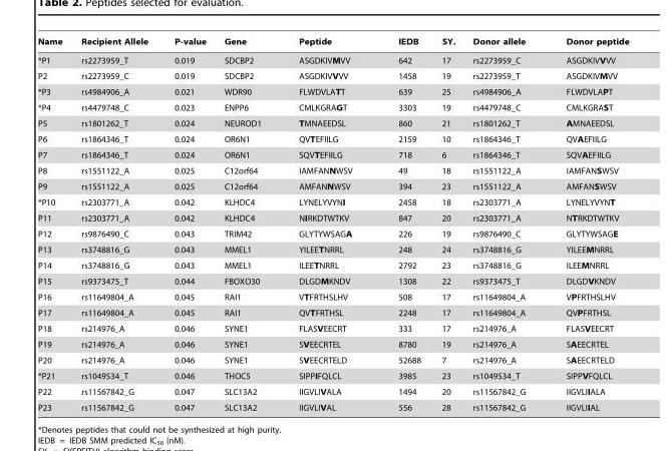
<table><thead><tr><td>Name</td><td>Recipient Allele</td><td>P-value</td><td>Gene</td><td>Peptide</td><td>IEDB</td><td>SY.</td><td>Donor allele</td><td>Donor peptide</td></tr></thead><tbody><tr><td>*P1</td><td>rs2273959_T</td><td>0.019</td><td>SDCBP2</td><td>ASGDKIVMVV</td><td>642</td><td>17</td><td>rs2273959_C</td><td>ASGDKIVVVV</td></tr><tr><td>P2</td><td>rs2273959_C</td><td>0.019</td><td>SDCBP2</td><td>ASGDKIVVVV</td><td>1458</td><td>19</td><td>rs2273959_T</td><td>ASGDKIVMVV</td></tr><tr><td>*P3</td><td>rs4984906_A</td><td>0.021</td><td>WDR90</td><td>FLWDVLATT</td><td>639</td><td>25</td><td>rs4984906_A</td><td>FLWDVLAPT</td></tr><tr><td>*P4</td><td>rs4479748_C</td><td>0.023</td><td>ENPP6</td><td>CMLKGRAGT</td><td>3303</td><td>19</td><td>rs4479748_C</td><td>CMLKGRAST</td></tr><tr><td>P5</td><td>rs1801262_T</td><td>0.024</td><td>NEUROD1</td><td>TMNAEEDSL</td><td>860</td><td>21</td><td>rs1801262_T</td><td>AMNAEEDSL</td></tr><tr><td>P6</td><td>rs1864346_T</td><td>0.024</td><td>OR6N1</td><td>QVTEFIILG</td><td>2159</td><td>10</td><td>rs1864346_T</td><td>QVAEFIILG</td></tr><tr><td>P7</td><td>rs1864346_T</td><td>0.024</td><td>OR6N1</td><td>SQVTEFIILG</td><td>718</td><td>6</td><td>rs1864346_T</td><td>SQVAEFIILG</td></tr><tr><td>P8</td><td>rs1551122_A</td><td>0.025</td><td>C12orf64</td><td>IAMFANNWSV</td><td>49</td><td>18</td><td>rs1551122_A</td><td>IAMFANSWSV</td></tr><tr><td>P9</td><td>rs1551122_A</td><td>0.025</td><td>C12orf64</td><td>AMFANNWSV</td><td>394</td><td>23</td><td>rs1551122_A</td><td>AMFANSWSV</td></tr><tr><td>*P10</td><td>rs2303771_A</td><td>0.042</td><td>KLHDC4</td><td>LYNELYVYNI</td><td>2458</td><td>18</td><td>rs2303771_A</td><td>LYNELYVYNT</td></tr><tr><td>P11</td><td>rs2303771_A</td><td>0.042</td><td>KLHDC4</td><td>NIRKDTWTKV</td><td>847</td><td>20</td><td>rs2303771_A</td><td>NTRKDTWTKV</td></tr><tr><td>P12</td><td>rs9876490_C</td><td>0.043</td><td>TRIM42</td><td>GLYTYWSAGA</td><td>226</td><td>19</td><td>rs9876490_C</td><td>GLYTYWSAGE</td></tr><tr><td>P13</td><td>rs3748816_G</td><td>0.043</td><td>MMEL1</td><td>YILEETNRRL</td><td>248</td><td>24</td><td>rs3748816_G</td><td>YILEEMNRRL</td></tr><tr><td>P14</td><td>rs3748816_G</td><td>0.043</td><td>MMEL1</td><td>ILEETNRRL</td><td>2792</td><td>23</td><td>rs3748816_G</td><td>ILEEMNRRL</td></tr><tr><td>P15</td><td>rs9373475_T</td><td>0.044</td><td>FBOXO30</td><td>DLGDMKNDV</td><td>1308</td><td>22</td><td>rs9373475_T</td><td>DLGDVKNDV</td></tr><tr><td>P16</td><td>rs11649804_A</td><td>0.045</td><td>RAI1</td><td>VTFRTHSLHV</td><td>508</td><td>17</td><td>rs11649804_A</td><td>VPFRTHSLHV</td></tr><tr><td>P17</td><td>rs11649804_A</td><td>0.045</td><td>RAI1</td><td>QVTFRTHSL</td><td>2248</td><td>17</td><td>rs11649804_A</td><td>QVPFRTHSL</td></tr><tr><td>P18</td><td>rs214976_A</td><td>0.046</td><td>SYNE1</td><td>FLASVEECRT</td><td>333</td><td>17</td><td>rs214976_A</td><td>FLASVEECRT</td></tr><tr><td>P19</td><td>rs214976_A</td><td>0.046</td><td>SYNE1</td><td>SVEECRTEL</td><td>8780</td><td>19</td><td>rs214976_A</td><td>SAEECRTEL</td></tr><tr><td>P20</td><td>rs214976_A</td><td>0.046</td><td>SYNE1</td><td>SVEECRTELD</td><td>52688</td><td>7</td><td>rs214976_A</td><td>SAEECRTELD</td></tr><tr><td>*P21</td><td>rs1049534_T</td><td>0.046</td><td>THOC5</td><td>SIPPIFQLCL</td><td>3985</td><td>23</td><td>rs1049534_T</td><td>SIPPVFQLCL</td></tr><tr><td>P22</td><td>rs11567842_G</td><td>0.047</td><td>SLC13A2</td><td>IIGVLIVALA</td><td>1494</td><td>20</td><td>rs11567842_G</td><td>IIGVLIIALA</td></tr><tr><td>P23</td><td>rs11567842_G</td><td>0.047</td><td>SLC13A2</td><td>IIGVLIVAL</td><td>556</td><td>28</td><td>rs11567842_G</td><td>IIGVLIIAL</td></tr></tbody></table>